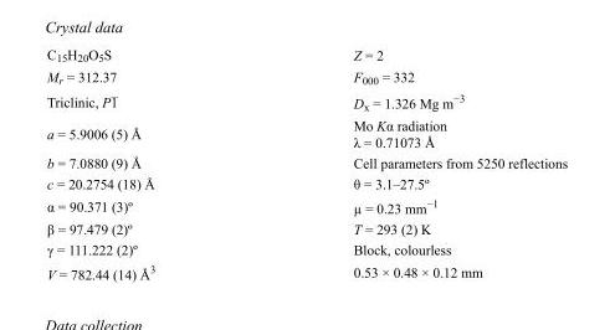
<table><tbody><tr><td>C<sub>15</sub>H<sub>20</sub>O<sub>5</sub>S</td><td>Z = 2</td></tr><tr><td>M<sub>r</sub> = 312.37</td><td>F<sub>000</sub> = 332</td></tr><tr><td>Triclinic, P1</td><td>D<sub>x</sub> = 1.326 Mg m<sup>−3</sup></td></tr><tr><td>a = 5.9006 (5) Å</td><td>Mo Kα radiation λ = 0.71073 Å</td></tr><tr><td>b = 7.0880 (9) Å</td><td>Cell parameters from 5250 reflections</td></tr><tr><td>c = 20.2754 (18) Å</td><td>θ = 3.1–27.5º</td></tr><tr><td>α = 90.371 (3)º</td><td>µ = 0.23 mm<sup>−1</sup></td></tr><tr><td>β = 97.479 (2)º</td><td>T = 293 (2) K</td></tr><tr><td>γ = 111.222 (2)º</td><td>Block, colourless</td></tr><tr><td>V = 782.44 (14) Å<sup>3</sup></td><td>0.53 × 0.48 × 0.12 mm</td></tr></tbody></table>